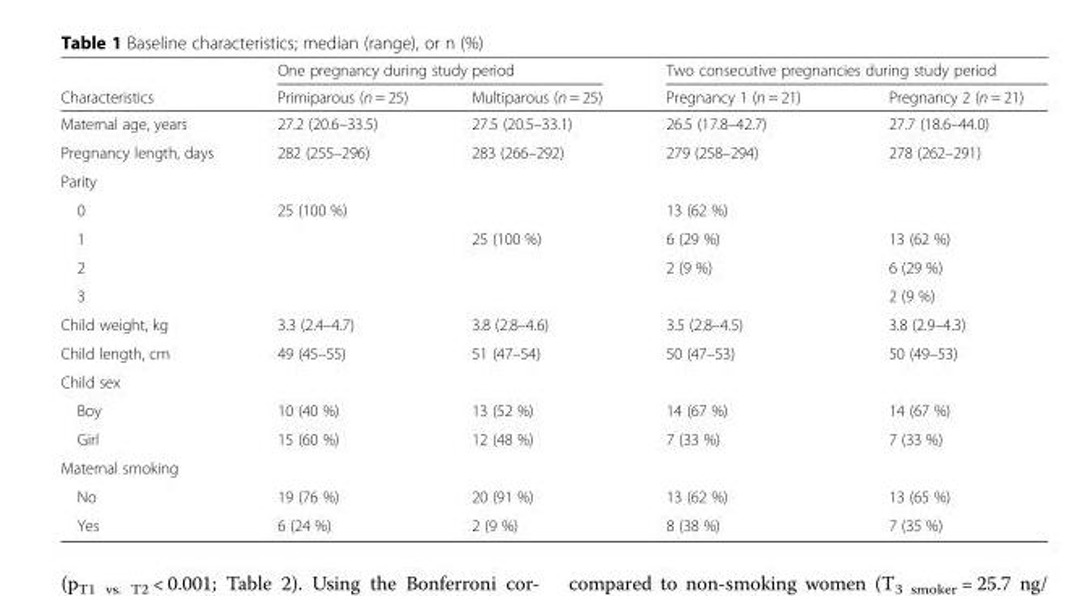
<table><thead><tr><td rowspan="2">Characteristics</td><td colspan="2">One pregnancy during study period</td><td colspan="2">Two consecutive pregnancies during study period</td></tr><tr><td>Primiparous (n = 25)</td><td>Multiparous (n = 25)</td><td>Pregnancy 1 (n = 21)</td><td>Pregnancy 2 (n = 21)</td></tr></thead><tbody><tr><td>Maternal age, years</td><td>27.2 (20.6–33.5)</td><td>27.5 (20.5–33.1)</td><td>26.5 (17.8–42.7)</td><td>27.7 (18.6–44.0)</td></tr><tr><td>Pregnancy length, days</td><td>282 (255–296)</td><td>283 (266–292)</td><td>279 (258–294)</td><td>278 (262–291)</td></tr><tr><td colspan="5">Parity</td></tr><tr><td>0</td><td>25 (100 %)</td><td></td><td>13 (62 %)</td><td></td></tr><tr><td>1</td><td></td><td>25 (100 %)</td><td>6 (29 %)</td><td>13 (62 %)</td></tr><tr><td>2</td><td></td><td></td><td>2 (9 %)</td><td>6 (29 %)</td></tr><tr><td>3</td><td></td><td></td><td></td><td>2 (9 %)</td></tr><tr><td>Child weight, kg</td><td>3.3 (2.4–4.7)</td><td>3.8 (2.8–4.6)</td><td>3.5 (2.8–4.5)</td><td>3.8 (2.9–4.3)</td></tr><tr><td>Child length, cm</td><td>49 (45–55)</td><td>51 (47–54)</td><td>50 (47–53)</td><td>50 (49–53)</td></tr><tr><td colspan="5">Child sex</td></tr><tr><td>Boy</td><td>10 (40 %)</td><td>13 (52 %)</td><td>14 (67 %)</td><td>14 (67 %)</td></tr><tr><td>Girl</td><td>15 (60 %)</td><td>12 (48 %)</td><td>7 (33 %)</td><td>7 (33 %)</td></tr><tr><td colspan="5">Maternal smoking</td></tr><tr><td>No</td><td>19 (76 %)</td><td>20 (91 %)</td><td>13 (62 %)</td><td>13 (65 %)</td></tr><tr><td>Yes</td><td>6 (24 %)</td><td>2 (9 %)</td><td>8 (38 %)</td><td>7 (35 %)</td></tr></tbody></table>